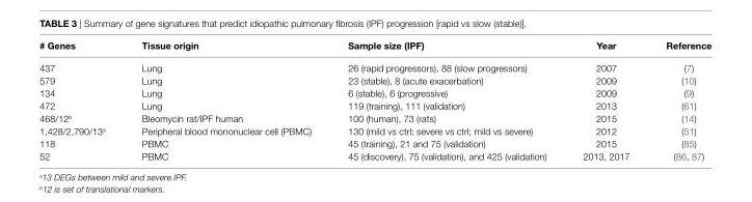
<table><thead><tr><td># genes</td><td>Tissue origin</td><td>Sample size (iPF)</td><td>Year</td><td>Reference</td></tr></thead><tbody><tr><td>437</td><td>Lung</td><td>26 (rapid progressors), 88 (slow progressors)</td><td>2007</td><td>(7)</td></tr><tr><td>579</td><td>Lung</td><td>23 (stable), 8 (acute exacerbation)</td><td>2009</td><td>(10)</td></tr><tr><td>134</td><td>Lung</td><td>6 (stable), 6 (progressive)</td><td>2009</td><td>(9)</td></tr><tr><td>472</td><td>Lung</td><td>119 (training), 111 (validation)</td><td>2013</td><td>(61)</td></tr><tr><td>468/12<sup>b</sup></td><td>Bleomycin rat/IPF human</td><td>100 (human), 73 (rats)</td><td>2015</td><td>(14)</td></tr><tr><td>1,428/2,790/13<sup>a</sup></td><td>Peripheral blood mononuclear cell (PBMC)</td><td>130 (mild vs ctrl; severe vs ctrl; mild vs severe)</td><td>2012</td><td>(51)</td></tr><tr><td>118</td><td>PBMC</td><td>45 (training), 21 and 75 (validation)</td><td>2015</td><td>(85)</td></tr><tr><td>52</td><td>PBMC</td><td>45 (discovery), 75 (validation), and 425 (validation)</td><td>2013, 2017</td><td>(86, 87)</td></tr></tbody></table>